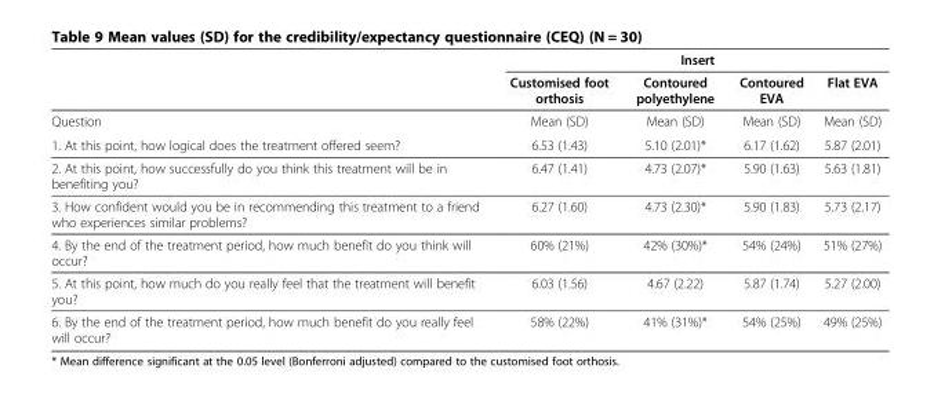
<table><thead><tr><td rowspan="2"></td><td colspan="4">Insert</td></tr><tr><td>Customised foot orthosis</td><td>Contoured polyethylene</td><td>Contoured EVA</td><td>Flat EVA</td></tr></thead><tbody><tr><td>Question</td><td>Mean (SD)</td><td>Mean (SD)</td><td>Mean (SD)</td><td>Mean (SD)</td></tr><tr><td>1. At this point, how logical does the treatment offered seem?</td><td>6.53 (1.43)</td><td>5.10 (2.01)*</td><td>6.17 (1.62)</td><td>5.87 (2.01)</td></tr><tr><td>2. At this point, how successfully do you think this treatment will be in benefiting you?</td><td>6.47 (1.41)</td><td>4.73 (2.07)*</td><td>5.90 (1.63)</td><td>5.63 (1.81)</td></tr><tr><td>3. How confident would you be in recommending this treatment to a friend who experiences similar problems?</td><td>6.27 (1.60)</td><td>4.73 (2.30)*</td><td>5.90 (1.83)</td><td>5.73 (2.17)</td></tr><tr><td>4. By the end of the treatment period, how much benefit do you think will occur?</td><td>60% (21%)</td><td>42% (30%)*</td><td>54% (24%)</td><td>51% (27%)</td></tr><tr><td>5. At this point, how much do you really feel that the treatment will benefit you?</td><td>6.03 (1.56)</td><td>4.67 (2.22)</td><td>5.87 (1.74)</td><td>5.27 (2.00)</td></tr><tr><td>6. By the end of the treatment period, how much benefit do you really feel will occur?</td><td>58% (22%)</td><td>41% (31%)*</td><td>54% (25%)</td><td>49% (25%)</td></tr></tbody></table>